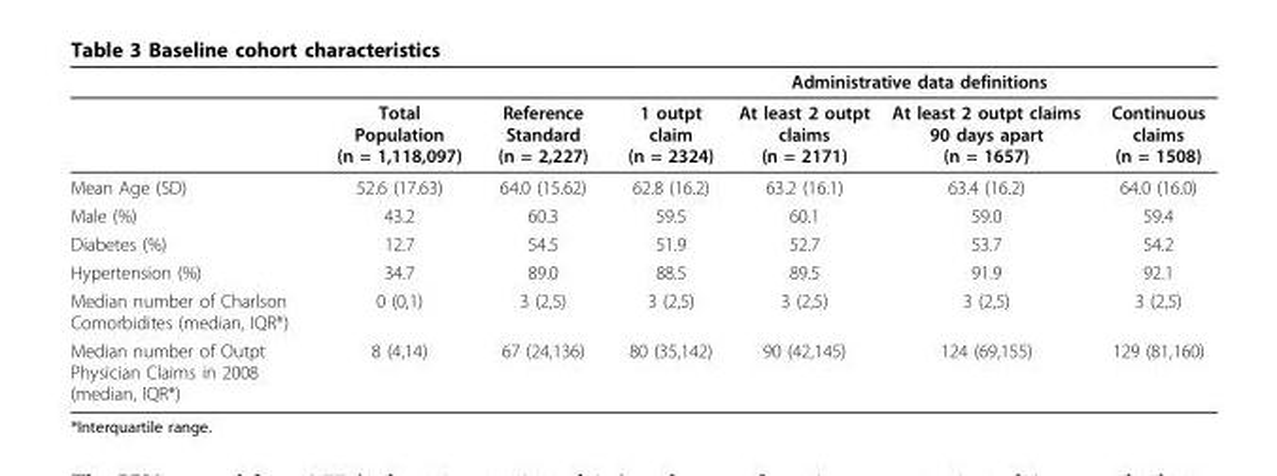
<table><thead><tr><td rowspan="2"></td><td rowspan="2">Total Population (n = 1,118,097)</td><td rowspan="2">Reference Standard (n = 2,227)</td><td colspan="4">Administrative data definitions</td></tr><tr><td>1 outpt claim (n = 2324)</td><td>At least 2 outpt claims (n = 2171)</td><td>At least 2 outpt claims 90 days apart (n = 1657)</td><td>Continuous claims (n = 1508)</td></tr></thead><tbody><tr><td>Mean Age (SD)</td><td>52.6 (17.63)</td><td>64.0 (15.62)</td><td>62.8 (16.2)</td><td>63.2 (16.1)</td><td>63.4 (16.2)</td><td>64.0 (16.0)</td></tr><tr><td>Male (%)</td><td>43.2</td><td>60.3</td><td>59.5</td><td>60.1</td><td>59.0</td><td>59.4</td></tr><tr><td>Diabetes (%)</td><td>12.7</td><td>54.5</td><td>51.9</td><td>52.7</td><td>53.7</td><td>54.2</td></tr><tr><td>Hypertension (%)</td><td>34.7</td><td>89.0</td><td>88.5</td><td>89.5</td><td>91.9</td><td>92.1</td></tr><tr><td>Median number of Charlson Comorbidites (median, IQR*)</td><td>0 (0,1)</td><td>3 (2,5)</td><td>3 (2,5)</td><td>3 (2,5)</td><td>3 (2,5)</td><td>3 (2,5)</td></tr><tr><td>Median number of Outpt Physician Claims in 2008 (median, IQR*)</td><td>8 (4,14)</td><td>67 (24,136)</td><td>80 (35,142)</td><td>90 (42,145)</td><td>124 (69,155)</td><td>129 (81,160)</td></tr></tbody></table>